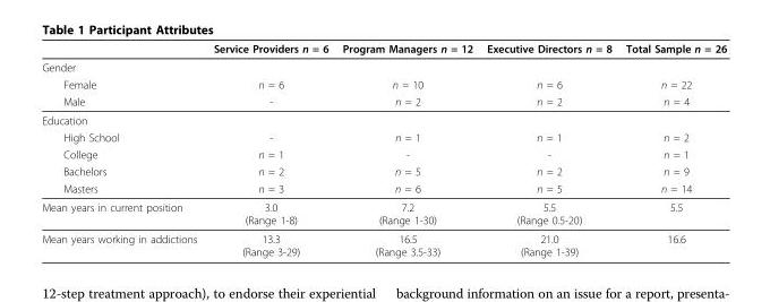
<table><thead><tr><td></td><td>Service Providers n = 6</td><td>Program Managers n = 12</td><td>Executive Directors n = 8</td><td>Total Sample n = 26</td></tr></thead><tbody><tr><td colspan="5">Gender</td></tr><tr><td>Female</td><td>n = 6</td><td>n = 10</td><td>n = 6</td><td>n = 22</td></tr><tr><td>Male</td><td>-</td><td>n = 2</td><td>n = 2</td><td>n = 4</td></tr><tr><td colspan="5">Education</td></tr><tr><td>High School</td><td>-</td><td>n = 1</td><td>n = 1</td><td>n = 2</td></tr><tr><td>College</td><td>n = 1</td><td>-</td><td>-</td><td>n = 1</td></tr><tr><td>Bachelors</td><td>n = 2</td><td>n = 5</td><td>n = 2</td><td>n = 9</td></tr><tr><td>Masters</td><td>n = 3</td><td>n = 6</td><td>n = 5</td><td>n = 14</td></tr><tr><td>Mean years in current position</td><td>3.0 (Range 1-8)</td><td>7.2 (Range 1-30)</td><td>5.5 (Range 0.5-20)</td><td>5.5</td></tr><tr><td>Mean years working in addictions</td><td>13.3 (Range 3-29)</td><td>16.5 (Range 3.5-33)</td><td>21.0 (Range 1-39)</td><td>16.6</td></tr></tbody></table>